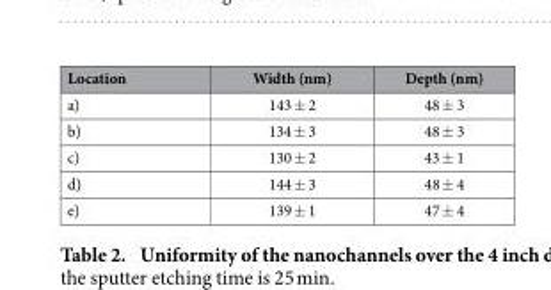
<table><thead><tr><td>Location</td><td>Width (nm)</td><td>Depth (nm)</td></tr></thead><tbody><tr><td>a)</td><td>143 ± 2</td><td>48 ± 3</td></tr><tr><td>b)</td><td>134 ± 3</td><td>48 ± 3</td></tr><tr><td>c)</td><td>130 ± 2</td><td>43 ± 1</td></tr><tr><td>d)</td><td>144 ± 3</td><td>48 ± 4</td></tr><tr><td>e)</td><td>139 ± 1</td><td>47 ± 4</td></tr></tbody></table>